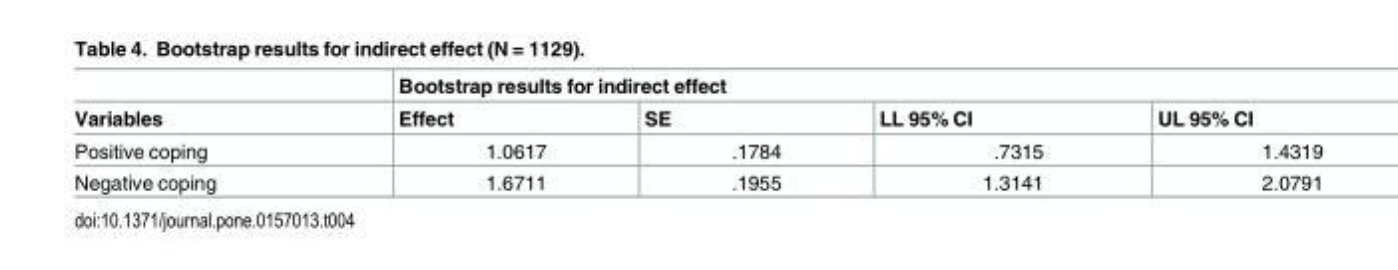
<table><thead><tr><td rowspan="2">Variables</td><td colspan="4">Bootstrap results for indirect effect</td></tr><tr><td>Effect</td><td>SE</td><td>LL 95% CI</td><td>UL 95% CI</td></tr></thead><tbody><tr><td>Positive coping</td><td>1.0617</td><td>.1784</td><td>.7315</td><td>1.4319</td></tr><tr><td>Negative coping</td><td>1.6711</td><td>.1955</td><td>1.3141</td><td>2.0791</td></tr></tbody></table>